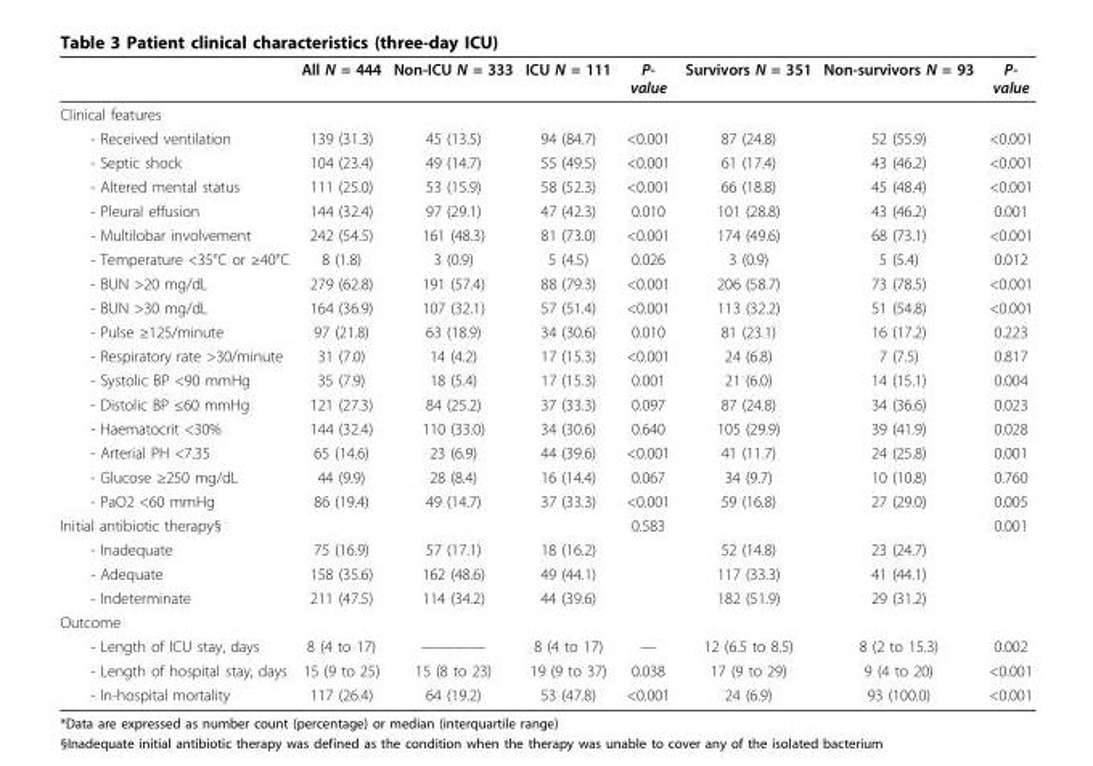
<table><thead><tr><td></td><td>All N = 444</td><td>Non-ICU N = 333</td><td>ICU N = 111</td><td>P- value</td><td>Survivors N = 351</td><td>Non-survivors N = 93</td><td>P- value</td></tr></thead><tbody><tr><td colspan="8">Clinical features</td></tr><tr><td>- Received ventilation</td><td>139 (31.3)</td><td>45 (13.5)</td><td>94 (84.7)</td><td>&lt;0.001</td><td>87 (24.8)</td><td>52 (55.9)</td><td>&lt;0.001</td></tr><tr><td>- Septic shock</td><td>104 (23.4)</td><td>49 (14.7)</td><td>55 (49.5)</td><td>&lt;0.001</td><td>61 (17.4)</td><td>43 (46.2)</td><td>&lt;0.001</td></tr><tr><td>- Altered mental status</td><td>111 (25.0)</td><td>53 (15.9)</td><td>58 (52.3)</td><td>&lt;0.001</td><td>66 (18.8)</td><td>45 (48.4)</td><td>&lt;0.001</td></tr><tr><td>- Pleural effusion</td><td>144 (32.4)</td><td>97 (29.1)</td><td>47 (42.3)</td><td>0.010</td><td>101 (28.8)</td><td>43 (46.2)</td><td>0.001</td></tr><tr><td>- Multilobar involvement</td><td>242 (54.5)</td><td>161 (48.3)</td><td>81 (73.0)</td><td>&lt;0.001</td><td>174 (49.6)</td><td>68 (73.1)</td><td>&lt;0.001</td></tr><tr><td>- Temperature &lt;35°C or ≥40°C</td><td>8 (1.8)</td><td>3 (0.9)</td><td>5 (4.5)</td><td>0.026</td><td>3 (0.9)</td><td>5 (5.4)</td><td>0.012</td></tr><tr><td>- BUN &gt;20 mg/dL</td><td>279 (62.8)</td><td>191 (57.4)</td><td>88 (79.3)</td><td>&lt;0.001</td><td>206 (58.7)</td><td>73 (78.5)</td><td>&lt;0.001</td></tr><tr><td>- BUN &gt;30 mg/dL</td><td>164 (36.9)</td><td>107 (32.1)</td><td>57 (51.4)</td><td>&lt;0.001</td><td>113 (32.2)</td><td>51 (54.8)</td><td>&lt;0.001</td></tr><tr><td>- Pulse ≥125/minute</td><td>97 (21.8)</td><td>63 (18.9)</td><td>34 (30.6)</td><td>0.010</td><td>81 (23.1)</td><td>16 (17.2)</td><td>0.223</td></tr><tr><td>- Respiratory rate &gt;30/minute</td><td>31 (7.0)</td><td>14 (4.2)</td><td>17 (15.3)</td><td>&lt;0.001</td><td>24 (6.8)</td><td>7 (7.5)</td><td>0.817</td></tr><tr><td>- Systolic BP &lt;90 mmHg</td><td>35 (7.9)</td><td>18 (5.4)</td><td>17 (15.3)</td><td>0.001</td><td>21 (6.0)</td><td>14 (15.1)</td><td>0.004</td></tr><tr><td>- Distolic BP ≤60 mmHg</td><td>121 (27.3)</td><td>84 (25.2)</td><td>37 (33.3)</td><td>0.097</td><td>87 (24.8)</td><td>34 (36.6)</td><td>0.023</td></tr><tr><td>- Haematocrit &lt;30%</td><td>144 (32.4)</td><td>110 (33.0)</td><td>34 (30.6)</td><td>0.640</td><td>105 (29.9)</td><td>39 (41.9)</td><td>0.028</td></tr><tr><td>- Arterial PH &lt;7.35</td><td>65 (14.6)</td><td>23 (6.9)</td><td>44 (39.6)</td><td>&lt;0.001</td><td>41 (11.7)</td><td>24 (25.8)</td><td>0.001</td></tr><tr><td>- Glucose ≥250 mg/dL</td><td>44 (9.9)</td><td>28 (8.4)</td><td>16 (14.4)</td><td>0.067</td><td>34 (9.7)</td><td>10 (10.8)</td><td>0.760</td></tr><tr><td>- PaO2 &lt;60 mmHg</td><td>86 (19.4)</td><td>49 (14.7)</td><td>37 (33.3)</td><td>&lt;0.001</td><td>59 (16.8)</td><td>27 (29.0)</td><td>0.005</td></tr><tr><td>Initial antibiotic therapy§</td><td></td><td></td><td></td><td>0.583</td><td></td><td></td><td>0.001</td></tr><tr><td>- Inadequate</td><td>75 (16.9)</td><td>57 (17.1)</td><td>18 (16.2)</td><td></td><td>52 (14.8)</td><td>23 (24.7)</td><td></td></tr><tr><td>- Adequate</td><td>158 (35.6)</td><td>162 (48.6)</td><td>49 (44.1)</td><td></td><td>117 (33.3)</td><td>41 (44.1)</td><td></td></tr><tr><td>- Indeterminate</td><td>211 (47.5)</td><td>114 (34.2)</td><td>44 (39.6)</td><td></td><td>182 (51.9)</td><td>29 (31.2)</td><td></td></tr><tr><td colspan="8">Outcome</td></tr><tr><td>- Length of ICU stay, days</td><td>8 (4 to 17)</td><td>————</td><td>8 (4 to 17)</td><td>—</td><td>12 (6.5 to 8.5)</td><td>8 (2 to 15.3)</td><td>0.002</td></tr><tr><td>- Length of hospital stay, days</td><td>15 (9 to 25)</td><td>15 (8 to 23)</td><td>19 (9 to 37)</td><td>0.038</td><td>17 (9 to 29)</td><td>9 (4 to 20)</td><td>&lt;0.001</td></tr><tr><td>- In-hospital mortality</td><td>117 (26.4)</td><td>64 (19.2)</td><td>53 (47.8)</td><td>&lt;0.001</td><td>24 (6.9)</td><td>93 (100.0)</td><td>&lt;0.001</td></tr></tbody></table>